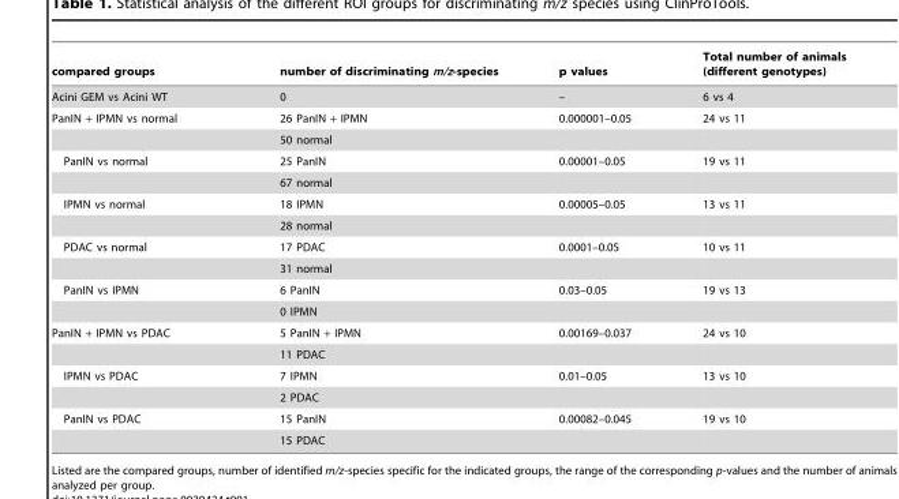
<table><thead><tr><td>compared groups</td><td>number of discriminating m/z-species</td><td>p values</td><td>Total number of animals (different genotypes)</td></tr></thead><tbody><tr><td>Acini GEM vs Acini WT</td><td>0</td><td>–</td><td>6 vs 4</td></tr><tr><td rowspan="2">PanIN + IPMN vs normal</td><td>26 PanIN + IPMN</td><td>0.000001–0.05</td><td>24 vs 11</td></tr><tr><td>50 normal</td><td></td><td></td></tr><tr><td rowspan="2">PanIN vs normal</td><td>25 PanIN</td><td>0.00001–0.05</td><td>19 vs 11</td></tr><tr><td>67 normal</td><td></td><td></td></tr><tr><td rowspan="2">IPMN vs normal</td><td>18 IPMN</td><td>0.00005–0.05</td><td>13 vs 11</td></tr><tr><td>28 normal</td><td></td><td></td></tr><tr><td rowspan="2">PDAC vs normal</td><td>17 PDAC</td><td>0.0001–0.05</td><td>10 vs 11</td></tr><tr><td>31 normal</td><td></td><td></td></tr><tr><td rowspan="2">PanIN vs IPMN</td><td>6 PanIN</td><td>0.03–0.05</td><td>19 vs 13</td></tr><tr><td>0 IPMN</td><td></td><td></td></tr><tr><td rowspan="2">PanIN + IPMN vs PDAC</td><td>5 PanIN + IPMN</td><td>0.00169–0.037</td><td>24 vs 10</td></tr><tr><td>11 PDAC</td><td></td><td></td></tr><tr><td rowspan="2">IPMN vs PDAC</td><td>7 IPMN</td><td>0.01–0.05</td><td>13 vs 10</td></tr><tr><td>2 PDAC</td><td></td><td></td></tr><tr><td rowspan="2">PanIN vs PDAC</td><td>15 PanIN</td><td>0.00082–0.045</td><td>19 vs 10</td></tr><tr><td>15 PDAC</td><td></td><td></td></tr></tbody></table>